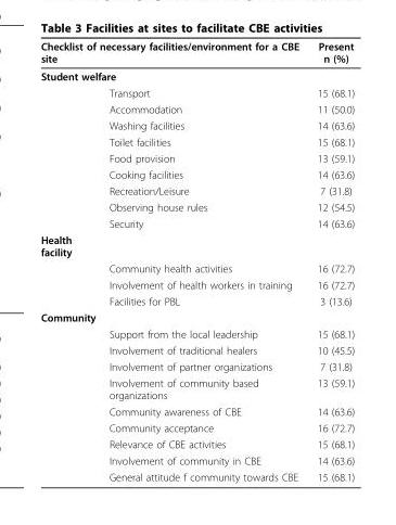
<table><thead><tr><td rowspan="2" colspan="2">Checklist of necessary facilities/environment for a CBE site Student welfare</td><td rowspan="3">Present n (%) 15 (68.1)</td></tr><tr></tr><tr><td></td><td>Transport</td></tr></thead><tbody><tr><td></td><td>Accommodation</td><td>11 (50.0)</td></tr><tr><td></td><td>Washing facilities</td><td>14 (63.6)</td></tr><tr><td></td><td>Toilet facilities</td><td>15 (68.1)</td></tr><tr><td></td><td>Food provision</td><td>13 (59.1)</td></tr><tr><td></td><td>Cooking facilities</td><td>14 (63.6)</td></tr><tr><td></td><td>Recreation/Leisure</td><td>7 (31.8)</td></tr><tr><td></td><td>Observing house rules</td><td>12 (54.5)</td></tr><tr><td></td><td>Security</td><td>14 (63.6)</td></tr><tr><td colspan="3">Health facility</td></tr><tr><td></td><td>Community health activities</td><td>16 (72.7)</td></tr><tr><td></td><td>Involvement of health workers in training</td><td>16 (72.7)</td></tr><tr><td></td><td>Facilities for PBL</td><td>3 (13.6)</td></tr><tr><td colspan="3">Community</td></tr><tr><td></td><td>Support from the local leadership</td><td>15 (68.1)</td></tr><tr><td></td><td>Involvement of traditional healers</td><td>10 (45.5)</td></tr><tr><td></td><td>Involvement of partner organizations</td><td>7 (31.8)</td></tr><tr><td></td><td>Involvement of community based organizations</td><td>13 (59.1)</td></tr><tr><td></td><td>Community awareness of CBE</td><td>14 (63.6)</td></tr><tr><td></td><td>Community acceptance</td><td>16 (72.7)</td></tr><tr><td></td><td>Relevance of CBE activities</td><td>15 (68.1)</td></tr><tr><td></td><td>Involvement of community in CBE</td><td>14 (63.6)</td></tr><tr><td></td><td>General attitude f community towards CBE</td><td>15 (68.1)</td></tr></tbody></table>